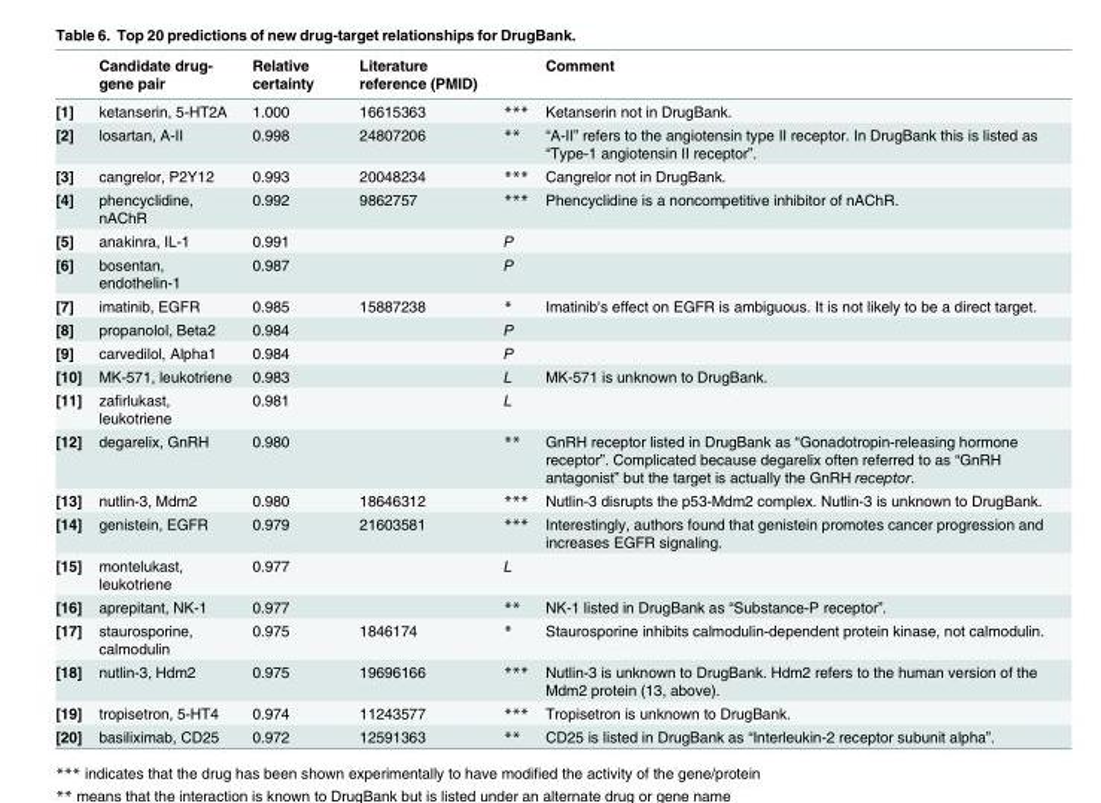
<table><thead><tr><td></td><td>Candidate drug- gene pair</td><td>Relative certainty</td><td>Literature reference (PMID)</td><td></td><td>Comment</td></tr></thead><tbody><tr><td>[1]</td><td>ketanserin, 5-HT2A</td><td>1.000</td><td>16615363</td><td>***</td><td>Ketanserin not in DrugBank.</td></tr><tr><td>[2]</td><td>losartan, A-II</td><td>0.998</td><td>24807206</td><td>**</td><td>“A-II” refers to the angiotensin type II receptor. In DrugBank this is listed as “Type-1 angiotensin II receptor”.</td></tr><tr><td>[3]</td><td>cangrelor, P2Y12</td><td>0.993</td><td>20048234</td><td>***</td><td>Cangrelor not in DrugBank.</td></tr><tr><td>[4]</td><td>phencyclidine, nAChR</td><td>0.992</td><td>9862757</td><td>***</td><td>Phencyclidine is a noncompetitive inhibitor of nAChR.</td></tr><tr><td>[5]</td><td>anakinra, IL-1</td><td>0.991</td><td></td><td>P</td><td></td></tr><tr><td>[6]</td><td>bosentan, endothelin-1</td><td>0.987</td><td></td><td>P</td><td></td></tr><tr><td>[7]</td><td>imatinib, EGFR</td><td>0.985</td><td>15887238</td><td>*</td><td>Imatinib&#x27;s effect on EGFR is ambiguous. It is not likely to be a direct target.</td></tr><tr><td>[8]</td><td>propanolol, Beta2</td><td>0.984</td><td></td><td>P</td><td></td></tr><tr><td>[9]</td><td>carvedilol, Alpha1</td><td>0.984</td><td></td><td>P</td><td></td></tr><tr><td>[10]</td><td>MK-571, leukotriene</td><td>0.983</td><td></td><td>L</td><td>MK-571 is unknown to DrugBank.</td></tr><tr><td>[11]</td><td>zafirlukast, leukotriene</td><td>0.981</td><td></td><td>L</td><td></td></tr><tr><td>[12]</td><td>degarelix, GnRH</td><td>0.980</td><td></td><td>**</td><td>GnRH receptor listed in DrugBank as “Gonadotropin-releasing hormone receptor”. Complicated because degarelix often referred to as “GnRH antagonist” but the target is actually the GnRH receptor.</td></tr><tr><td>[13]</td><td>nutlin-3, Mdm2</td><td>0.980</td><td>18646312</td><td>***</td><td>Nutlin-3 disrupts the p53-Mdm2 complex. Nutlin-3 is unknown to DrugBank.</td></tr><tr><td>[14]</td><td>genistein, EGFR</td><td>0.979</td><td>21603581</td><td>***</td><td>Interestingly, authors found that genistein promotes cancer progression and increases EGFR signaling.</td></tr><tr><td>[15]</td><td>montelukast, leukotriene</td><td>0.977</td><td></td><td>L</td><td></td></tr><tr><td>[16]</td><td>aprepitant, NK-1</td><td>0.977</td><td></td><td>**</td><td>NK-1 listed in DrugBank as “Substance-P receptor”.</td></tr><tr><td>[17]</td><td>staurosporine, calmodulin</td><td>0.975</td><td>1846174</td><td>*</td><td>Staurosporine inhibits calmodulin-dependent protein kinase, not calmodulin.</td></tr><tr><td>[18]</td><td>nutlin-3, Hdm2</td><td>0.975</td><td>19696166</td><td>***</td><td>Nutlin-3 is unknown to DrugBank. Hdm2 refers to the human version of the Mdm2 protein (13, above).</td></tr><tr><td>[19]</td><td>tropisetron, 5-HT4</td><td>0.974</td><td>11243577</td><td>***</td><td>Tropisetron is unknown to DrugBank.</td></tr><tr><td>[20]</td><td>basiliximab, CD25</td><td>0.972</td><td>12591363</td><td>**</td><td>CD25 is listed in DrugBank as “Interleukin-2 receptor subunit alpha”.</td></tr></tbody></table>